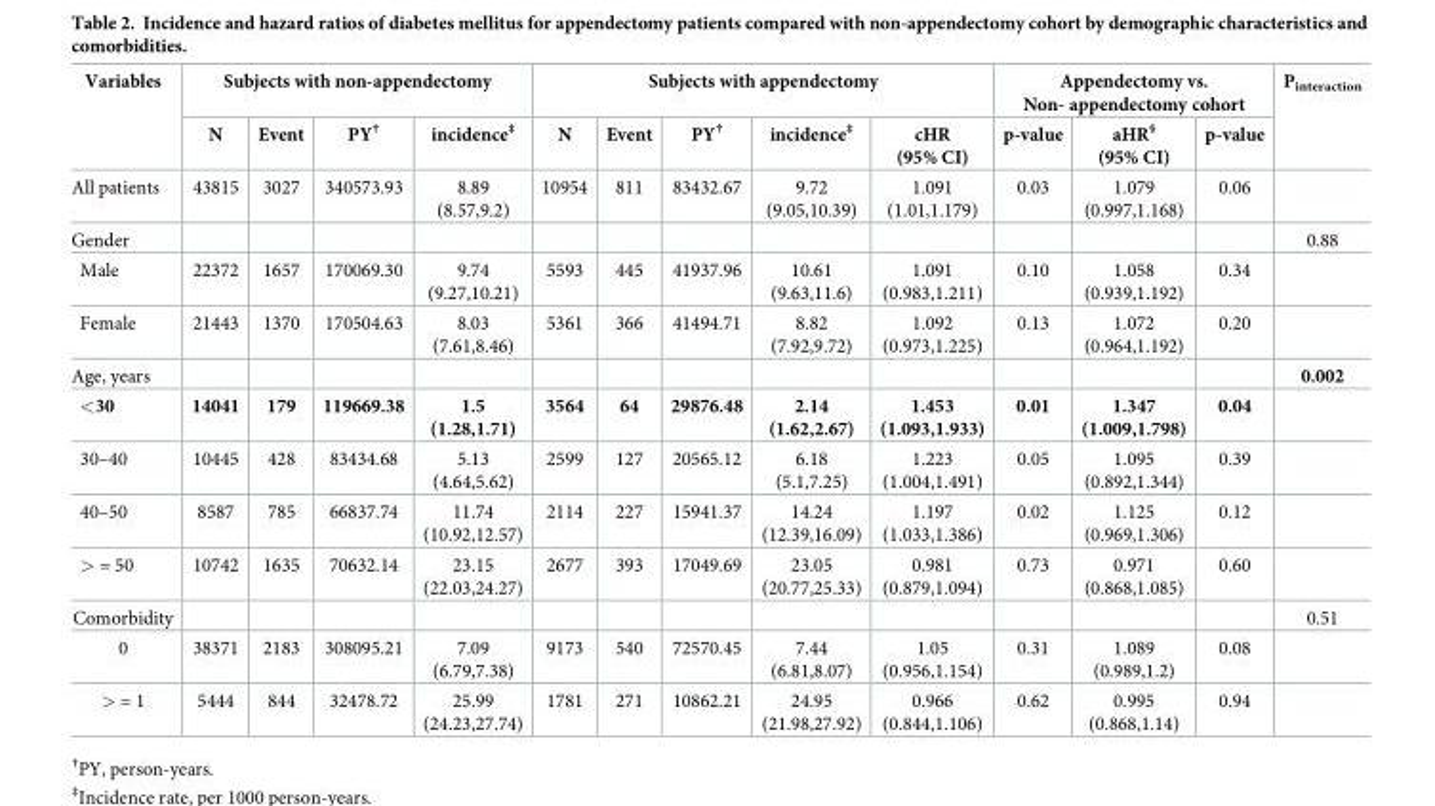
<table><thead><tr><td rowspan="2">Variables</td><td colspan="4">Subjects with non-appendectomy</td><td colspan="5">Subjects with appendectomy</td><td colspan="3">Appendectomy vs. Non- appendectomy cohort</td><td rowspan="2">P<sub>interaction</sub></td></tr><tr><td>N</td><td>Event</td><td>PY<sup>†</sup></td><td>incidence<sup>‡</sup></td><td>N</td><td>Event</td><td>PY<sup>†</sup></td><td>incidence<sup>‡</sup></td><td>cHR (95% CI)</td><td>p-value</td><td>aHR<sup>§</sup> (95% CI)</td><td>p-value</td></tr></thead><tbody><tr><td>All patients</td><td>43815</td><td>3027</td><td>340573.93</td><td>8.89 (8.57,9.2)</td><td>10954</td><td>811</td><td>83432.67</td><td>9.72 (9.05,10.39)</td><td>1.091 (1.01,1.179)</td><td>0.03</td><td>1.079 (0.997,1.168)</td><td>0.06</td><td></td></tr><tr><td>Gender</td><td></td><td></td><td></td><td></td><td></td><td></td><td></td><td></td><td></td><td></td><td></td><td></td><td>0.88</td></tr><tr><td>Male</td><td>22372</td><td>1657</td><td>170069.30</td><td>9.74 (9.27,10.21)</td><td>5593</td><td>445</td><td>41937.96</td><td>10.61 (9.63,11.6)</td><td>1.091 (0.983,1.211)</td><td>0.10</td><td>1.058 (0.939,1.192)</td><td>0.34</td><td></td></tr><tr><td>Female</td><td>21443</td><td>1370</td><td>170504.63</td><td>8.03 (7.61,8.46)</td><td>5361</td><td>366</td><td>41494.71</td><td>8.82 (7.92,9.72)</td><td>1.092 (0.973,1.225)</td><td>0.13</td><td>1.072 (0.964,1.192)</td><td>0.20</td><td></td></tr><tr><td>Age, years</td><td></td><td></td><td></td><td></td><td></td><td></td><td></td><td></td><td></td><td></td><td></td><td></td><td>0.002</td></tr><tr><td>&lt;30</td><td>14041</td><td>179</td><td>119669.38</td><td>1.5 (1.28,1.71)</td><td>3564</td><td>64</td><td>29876.48</td><td>2.14 (1.62,2.67)</td><td>1.453 (1.093,1.933)</td><td>0.01</td><td>1.347 (1.009,1.798)</td><td>0.04</td><td></td></tr><tr><td>30–40</td><td>10445</td><td>428</td><td>83434.68</td><td>5.13 (4.64,5.62)</td><td>2599</td><td>127</td><td>20565.12</td><td>6.18 (5.1,7.25)</td><td>1.223 (1.004,1.491)</td><td>0.05</td><td>1.095 (0.892,1.344)</td><td>0.39</td><td></td></tr><tr><td>40–50</td><td>8587</td><td>785</td><td>66837.74</td><td>11.74 (10.92,12.57)</td><td>2114</td><td>227</td><td>15941.37</td><td>14.24 (12.39,16.09)</td><td>1.197 (1.033,1.386)</td><td>0.02</td><td>1.125 (0.969,1.306)</td><td>0.12</td><td></td></tr><tr><td>&gt; = 50</td><td>10742</td><td>1635</td><td>70632.14</td><td>23.15 (22.03,24.27)</td><td>2677</td><td>393</td><td>17049.69</td><td>23.05 (20.77,25.33)</td><td>0.981 (0.879,1.094)</td><td>0.73</td><td>0.971 (0.868,1.085)</td><td>0.60</td><td></td></tr><tr><td>Comorbidity</td><td></td><td></td><td></td><td></td><td></td><td></td><td></td><td></td><td></td><td></td><td></td><td></td><td>0.51</td></tr><tr><td>0</td><td>38371</td><td>2183</td><td>308095.21</td><td>7.09 (6.79,7.38)</td><td>9173</td><td>540</td><td>72570.45</td><td>7.44 (6.81,8.07)</td><td>1.05 (0.956,1.154)</td><td>0.31</td><td>1.089 (0.989,1.2)</td><td>0.08</td><td></td></tr><tr><td>&gt; = 1</td><td>5444</td><td>844</td><td>32478.72</td><td>25.99 (24.23,27.74)</td><td>1781</td><td>271</td><td>10862.21</td><td>24.95 (21.98,27.92)</td><td>0.966 (0.844,1.106)</td><td>0.62</td><td>0.995 (0.868,1.14)</td><td>0.94</td><td></td></tr></tbody></table>